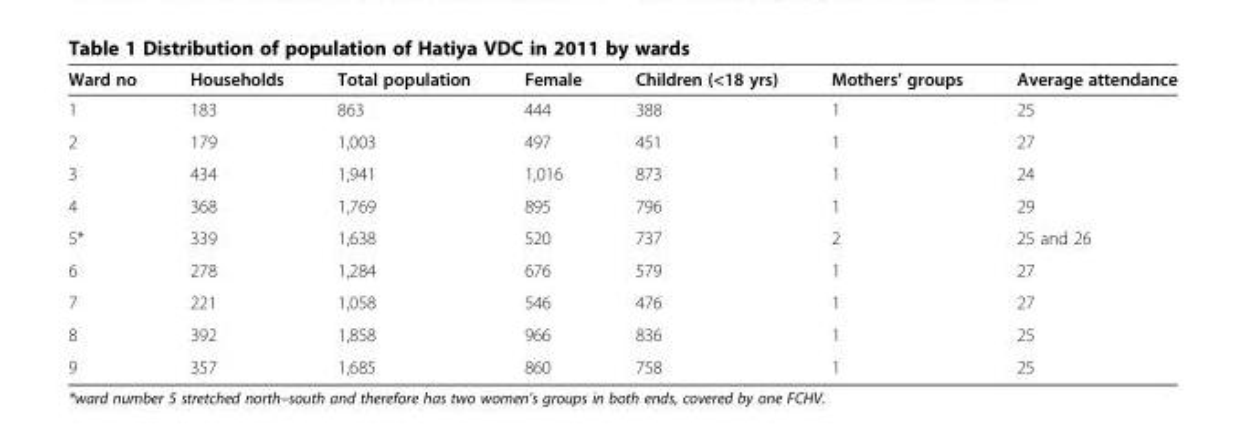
<table><thead><tr><td>Ward no</td><td>Households</td><td>Total population</td><td>Female</td><td>Children (&lt;18 yrs)</td><td>Mothers’ groups</td><td>Average attendance</td></tr></thead><tbody><tr><td>1</td><td>183</td><td>863</td><td>444</td><td>388</td><td>1</td><td>25</td></tr><tr><td>2</td><td>179</td><td>1,003</td><td>497</td><td>451</td><td>1</td><td>27</td></tr><tr><td>3</td><td>434</td><td>1,941</td><td>1,016</td><td>873</td><td>1</td><td>24</td></tr><tr><td>4</td><td>368</td><td>1,769</td><td>895</td><td>796</td><td>1</td><td>29</td></tr><tr><td>5*</td><td>339</td><td>1,638</td><td>520</td><td>737</td><td>2</td><td>25 and 26</td></tr><tr><td>6</td><td>278</td><td>1,284</td><td>676</td><td>579</td><td>1</td><td>27</td></tr><tr><td>7</td><td>221</td><td>1,058</td><td>546</td><td>476</td><td>1</td><td>27</td></tr><tr><td>8</td><td>392</td><td>1,858</td><td>966</td><td>836</td><td>1</td><td>25</td></tr><tr><td>9</td><td>357</td><td>1,685</td><td>860</td><td>758</td><td>1</td><td>25</td></tr></tbody></table>